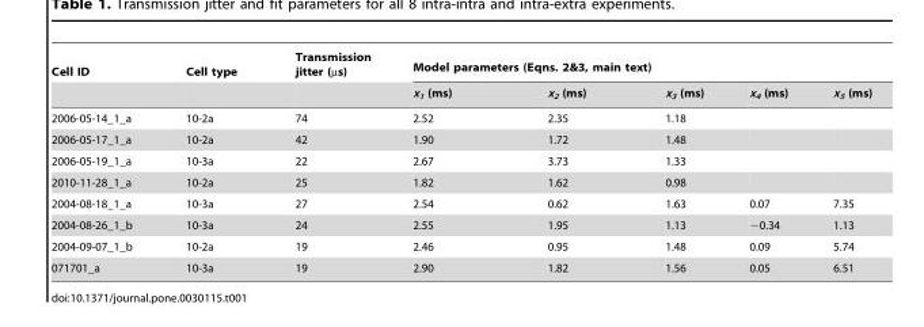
<table><thead><tr><td rowspan="2">Cell ID</td><td rowspan="2">Cell type</td><td rowspan="2">Transmission jitter (µs)</td><td colspan="5">Model parameters (Eqns. 2&amp;3, main text)</td></tr><tr><td>x<sub>1</sub> (ms)</td><td>x<sub>2</sub> (ms)</td><td>x<sub>3</sub> (ms)</td><td>x<sub>4</sub> (ms)</td><td>x<sub>5</sub> (ms)</td></tr></thead><tbody><tr><td>2006-05-14_1_a</td><td>10-2a</td><td>74</td><td>2.52</td><td>2.35</td><td>1.18</td><td></td><td></td></tr><tr><td>2006-05-17_1_a</td><td>10-2a</td><td>42</td><td>1.90</td><td>1.72</td><td>1.48</td><td></td><td></td></tr><tr><td>2006-05-19_1_a</td><td>10-3a</td><td>22</td><td>2.67</td><td>3.73</td><td>1.33</td><td></td><td></td></tr><tr><td>2010-11-28_1_a</td><td>10-2a</td><td>25</td><td>1.82</td><td>1.62</td><td>0.98</td><td></td><td></td></tr><tr><td>2004-08-18_1_a</td><td>10-3a</td><td>27</td><td>2.54</td><td>0.62</td><td>1.63</td><td>0.07</td><td>7.35</td></tr><tr><td>2004-08-26_1_b</td><td>10-3a</td><td>24</td><td>2.55</td><td>1.95</td><td>1.13</td><td>−0.34</td><td>1.13</td></tr><tr><td>2004-09-07_1_b</td><td>10-2a</td><td>19</td><td>2.46</td><td>0.95</td><td>1.48</td><td>0.09</td><td>5.74</td></tr><tr><td>071701_a</td><td>10-3a</td><td>19</td><td>2.90</td><td>1.82</td><td>1.56</td><td>0.05</td><td>6.51</td></tr></tbody></table>